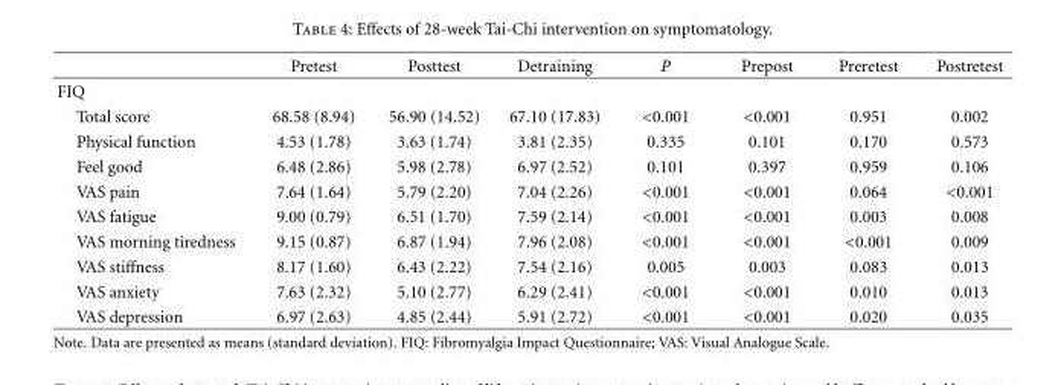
<table><thead><tr><td></td><td>Pretest</td><td>Posttest</td><td>Detraining</td><td>P</td><td>Prepost</td><td>Preretest</td><td>Postretest</td></tr></thead><tbody><tr><td colspan="8">FIQ</td></tr><tr><td>Total score</td><td>68.58 (8.94)</td><td>56.90 (14.52)</td><td>67.10 (17.83)</td><td>&lt;0.001</td><td>&lt;0.001</td><td>0.951</td><td>0.002</td></tr><tr><td>Physical function</td><td>4.53 (1.78)</td><td>3.63 (1.74)</td><td>3.81 (2.35)</td><td>0.335</td><td>0.101</td><td>0.170</td><td>0.573</td></tr><tr><td>Feel good</td><td>6.48 (2.86)</td><td>5.98 (2.78)</td><td>6.97 (2.52)</td><td>0.101</td><td>0.397</td><td>0.959</td><td>0.106</td></tr><tr><td>VAS pain</td><td>7.64 (1.64)</td><td>5.79 (2.20)</td><td>7.04 (2.26)</td><td>&lt;0.001</td><td>&lt;0.001</td><td>0.064</td><td>&lt;0.001</td></tr><tr><td>VAS fatigue</td><td>9.00 (0.79)</td><td>6.51 (1.70)</td><td>7.59 (2.14)</td><td>&lt;0.001</td><td>&lt;0.001</td><td>0.003</td><td>0.008</td></tr><tr><td>VAS morning tiredness</td><td>9.15 (0.87)</td><td>6.87 (1.94)</td><td>7.96 (2.08)</td><td>&lt;0.001</td><td>&lt;0.001</td><td>&lt;0.001</td><td>0.009</td></tr><tr><td>VAS stiffness</td><td>8.17 (1.60)</td><td>6.43 (2.22)</td><td>7.54 (2.16)</td><td>0.005</td><td>0.003</td><td>0.083</td><td>0.013</td></tr><tr><td>VAS anxiety</td><td>7.63 (2.32)</td><td>5.10 (2.77)</td><td>6.29 (2.41)</td><td>&lt;0.001</td><td>&lt;0.001</td><td>0.010</td><td>0.013</td></tr><tr><td>VAS depression</td><td>6.97 (2.63)</td><td>4.85 (2.44)</td><td>5.91 (2.72)</td><td>&lt;0.001</td><td>&lt;0.001</td><td>0.020</td><td>0.035</td></tr></tbody></table>